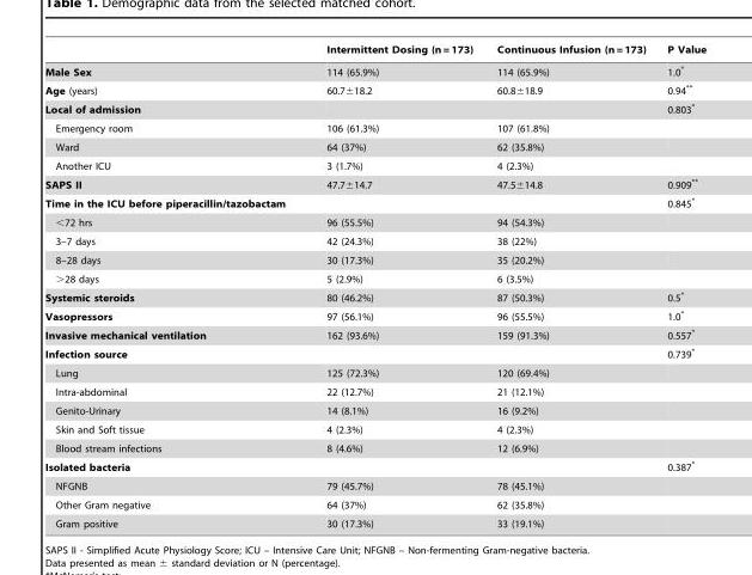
<table><thead><tr><td></td><td>Intermittent Dosing (n = 173)</td><td>Continuous Infusion (n = 173)</td><td>P Value</td></tr></thead><tbody><tr><td>Male Sex</td><td>114 (65.9%)</td><td>114 (65.9%)</td><td>1.0*</td></tr><tr><td>Age (years)</td><td>60.7±18.2</td><td>60.8±18.9</td><td>0.94**</td></tr><tr><td>Local of admission</td><td colspan="2"></td><td>0.803*</td></tr><tr><td>Emergency room</td><td>106 (61.3%)</td><td>107 (61.8%)</td><td></td></tr><tr><td>Ward</td><td>64 (37%)</td><td>62 (35.8%)</td><td></td></tr><tr><td>Another ICU</td><td>3 (1.7%)</td><td>4 (2.3%)</td><td></td></tr><tr><td>SAPS II</td><td>47.7±14.7</td><td>47.5±14.8</td><td>0.909**</td></tr><tr><td>Time in the ICU before piperacillin/tazobactam</td><td colspan="2"></td><td>0.845*</td></tr><tr><td>&lt;72 hrs</td><td>96 (55.5%)</td><td>94 (54.3%)</td><td></td></tr><tr><td>3–7 days</td><td>42 (24.3%)</td><td>38 (22%)</td><td></td></tr><tr><td>8–28 days</td><td>30 (17.3%)</td><td>35 (20.2%)</td><td></td></tr><tr><td>&gt;28 days</td><td>5 (2.9%)</td><td>6 (3.5%)</td><td></td></tr><tr><td>Systemic steroids</td><td>80 (46.2%)</td><td>87 (50.3%)</td><td>0.5*</td></tr><tr><td>Vasopressors</td><td>97 (56.1%)</td><td>96 (55.5%)</td><td>1.0*</td></tr><tr><td>Invasive mechanical ventilation</td><td>162 (93.6%)</td><td>159 (91.3%)</td><td>0.557*</td></tr><tr><td>Infection source</td><td colspan="2"></td><td>0.739*</td></tr><tr><td>Lung</td><td>125 (72.3%)</td><td>120 (69.4%)</td><td></td></tr><tr><td>Intra-abdominal</td><td>22 (12.7%)</td><td>21 (12.1%)</td><td></td></tr><tr><td>Genito-Urinary</td><td>14 (8.1%)</td><td>16 (9.2%)</td><td></td></tr><tr><td>Skin and Soft tissue</td><td>4 (2.3%)</td><td>4 (2.3%)</td><td></td></tr><tr><td>Blood stream infections</td><td>8 (4.6%)</td><td>12 (6.9%)</td><td></td></tr><tr><td>Isolated bacteria</td><td colspan="2"></td><td>0.387*</td></tr><tr><td>NFGNB</td><td>79 (45.7%)</td><td>78 (45.1%)</td><td></td></tr><tr><td>Other Gram negative</td><td>64 (37%)</td><td>62 (35.8%)</td><td></td></tr><tr><td>Gram positive</td><td>30 (17.3%)</td><td>33 (19.1%)</td><td></td></tr></tbody></table>